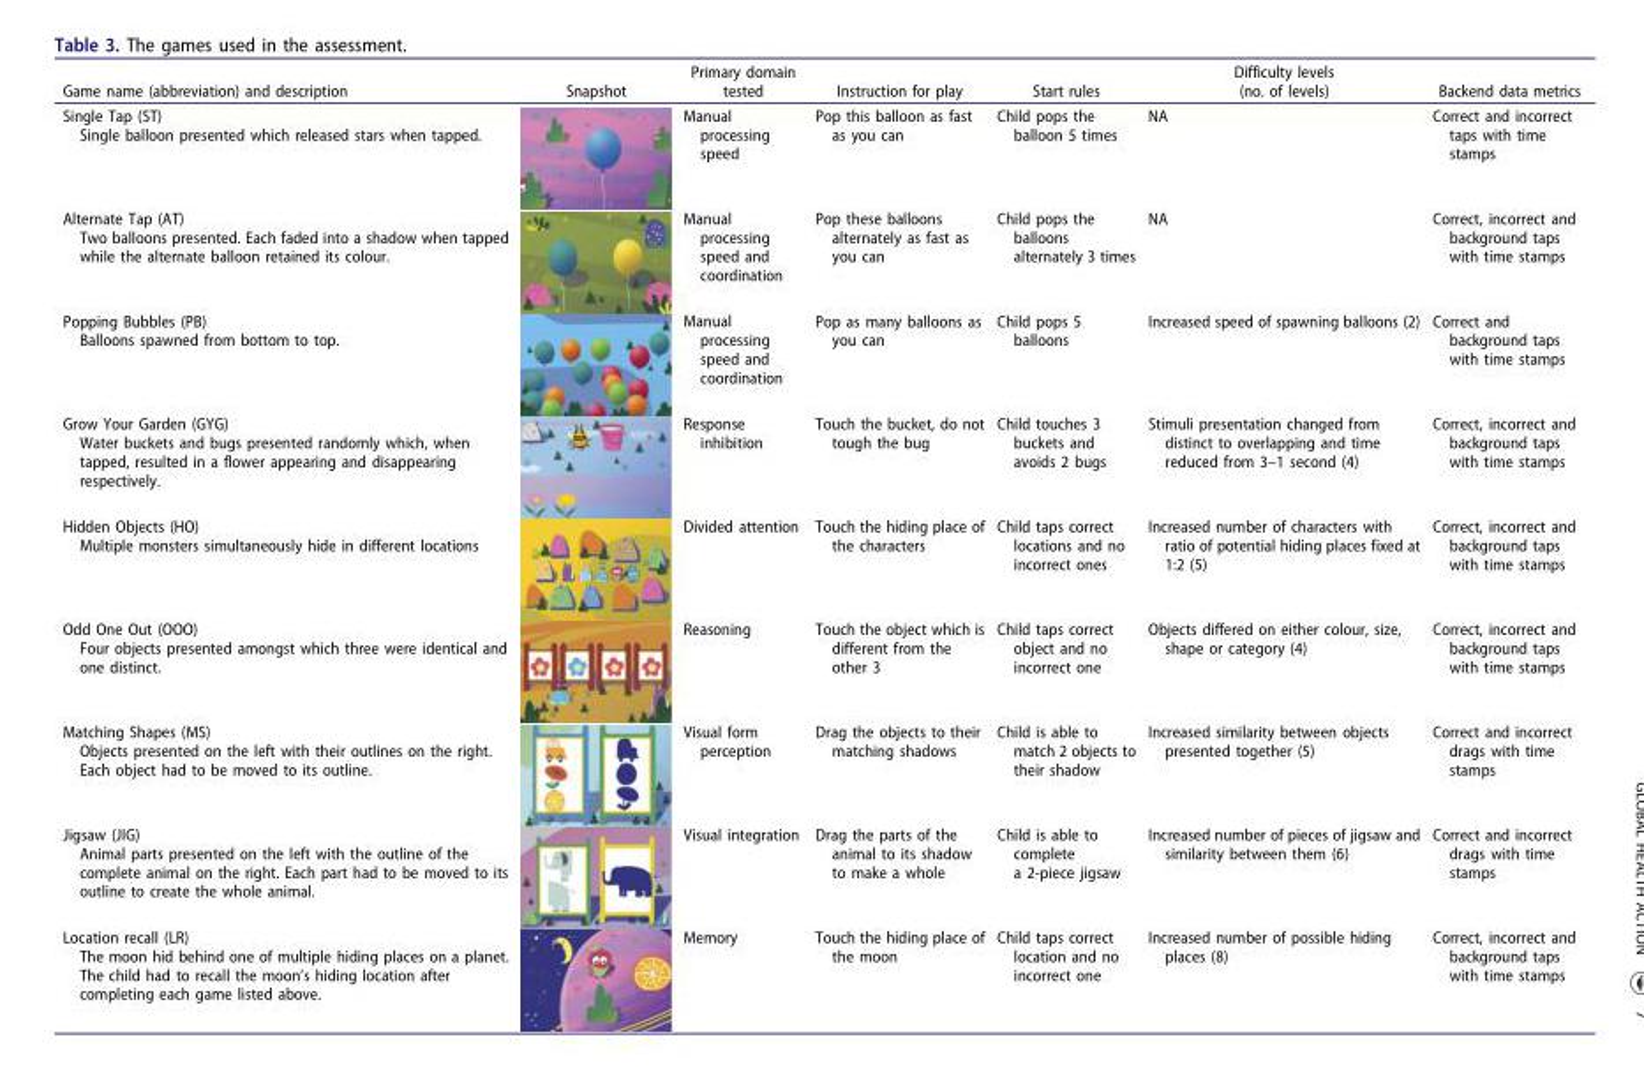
<table><thead><tr><td>Game name (abbreviation) and description</td><td>Snapshot</td><td>Primary domain tested</td><td>Instruction for play</td><td>Start rules</td><td>Difficulty levels (no. of levels)</td><td>Backend data metrics</td></tr></thead><tbody><tr><td>Single Tap (ST) Single balloon presented which released stars when tapped.</td><td></td><td>Manual processing speed</td><td>Pop this balloon as fast as you can</td><td>Child pops the balloon 5 times</td><td>NA</td><td>Correct and incorrect taps with time stamps</td></tr><tr><td>Alternate Tap (AT) Two balloons presented. Each faded into a shadow when tapped while the alternate balloon retained its colour.</td><td></td><td>Manual processing speed and coordination</td><td>Pop these balloons alternately as fast as you can</td><td>Child pops the balloons alternately 3 times</td><td>NA</td><td>Correct, incorrect and background taps with time stamps</td></tr><tr><td>Popping Bubbles (PB) Balloons spawned from bottom to top.</td><td></td><td>Manual processing speed and coordination</td><td>Pop as many balloons as you can</td><td>Child pops 5 balloons</td><td>Increased speed of spawning balloons (2)</td><td>Correct and background taps with time stamps</td></tr><tr><td>Grow Your Garden (GYG) Water buckets and bugs presented randomly which, when tapped, resulted in a flower appearing and disappearing respectively.</td><td></td><td>Response inhibition</td><td>Touch the bucket, do not tough the bug</td><td>Child touches 3 buckets and avoids 2 bugs</td><td>Stimuli presentation changed from distinct to overlapping and time reduced from 3–1 second (4)</td><td>Correct, incorrect and background taps with time stamps</td></tr><tr><td>Hidden Objects (HO) Multiple monsters simultaneously hide in different locations</td><td></td><td>Divided attention</td><td>Touch the hiding place of the characters</td><td>Child taps correct locations and no incorrect ones</td><td>Increased number of characters with ratio of potential hiding places fixed at 1:2 (5)</td><td>Correct, incorrect and background taps with time stamps</td></tr><tr><td>Odd One Out (OOO) Four objects presented amongst which three were identical and one distinct.</td><td></td><td>Reasoning</td><td>Touch the object which is different from the other 3</td><td>Child taps correct object and no incorrect one</td><td>Objects differed on either colour, size, shape or category (4)</td><td>Correct, incorrect and background taps with time stamps</td></tr><tr><td>Matching Shapes (MS) Objects presented on the left with their outlines on the right. Each object had to be moved to its outline.</td><td></td><td>Visual form perception</td><td>Drag the objects to their matching shadows</td><td>Child is able to match 2 objects to their shadow</td><td>Increased similarity between objects presented together (5)</td><td>Correct and incorrect drags with time stamps</td></tr><tr><td>Jigsaw (JIG) Animal parts presented on the left with the outline of the complete animal on the right. Each part had to be moved to its outline to create the whole animal.</td><td></td><td>Visual integration</td><td>Drag the parts of the animal to its shadow to make a whole</td><td>Child is able to complete a 2-piece jigsaw</td><td>Increased number of pieces of jigsaw and similarity between them (6)</td><td>Correct and incorrect drags with time stamps</td></tr><tr><td>Location recall (LR) The moon hid behind one of multiple hiding places on a planet. The child had to recall the moon’s hiding location after completing each game listed above.</td><td></td><td>Memory</td><td>Touch the hiding place of the moon</td><td>Child taps correct location and no incorrect one</td><td>Increased number of possible hiding places (8)</td><td>Correct, incorrect and background taps with time stamps</td></tr></tbody></table>